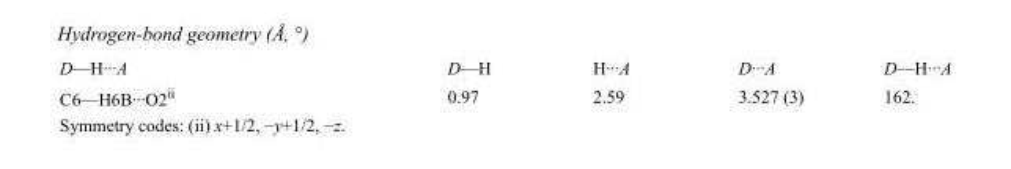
<table><tbody><tr><td>D—H···A</td><td>D—H</td><td>H···A</td><td>D···A</td><td>D—H···A</td></tr><tr><td>C6—H6B···O2<sup>ii</sup></td><td>0.97</td><td>2.59</td><td>3.527 (3)</td><td>162.</td></tr></tbody></table>